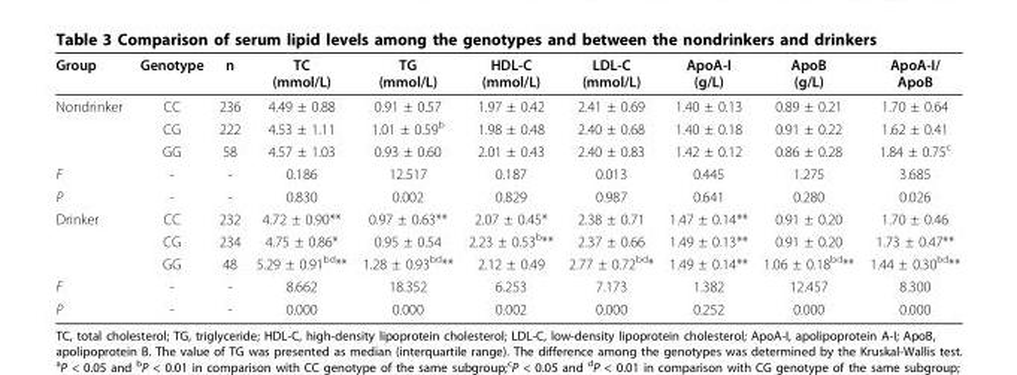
<table><thead><tr><td>Group</td><td>Genotype</td><td>n</td><td>TC (mmol/L)</td><td>TG (mmol/L)</td><td>HDL-C (mmol/L)</td><td>LDL-C (mmol/L)</td><td>ApoA-I (g/L)</td><td>ApoB (g/L)</td><td>ApoA-I/ ApoB</td></tr></thead><tbody><tr><td rowspan="3">Nondrinker</td><td>CC</td><td>236</td><td>4.49 ± 0.88</td><td>0.91 ± 0.57</td><td>1.97 ± 0.42</td><td>2.41 ± 0.69</td><td>1.40 ± 0.13</td><td>0.89 ± 0.21</td><td>1.70 ± 0.64</td></tr><tr><td>CG</td><td>222</td><td>4.53 ± 1.11</td><td>1.01 ± 0.59<sup>b</sup></td><td>1.98 ± 0.48</td><td>2.40 ± 0.68</td><td>1.40 ± 0.18</td><td>0.91 ± 0.22</td><td>1.62 ± 0.41</td></tr><tr><td>GG</td><td>58</td><td>4.57 ± 1.03</td><td>0.93 ± 0.60</td><td>2.01 ± 0.43</td><td>2.40 ± 0.83</td><td>1.42 ± 0.12</td><td>0.86 ± 0.28</td><td>1.84 ± 0.75<sup>c</sup></td></tr><tr><td>F</td><td>-</td><td>-</td><td>0.186</td><td>12.517</td><td>0.187</td><td>0.013</td><td>0.445</td><td>1.275</td><td>3.685</td></tr><tr><td>P</td><td>-</td><td>-</td><td>0.830</td><td>0.002</td><td>0.829</td><td>0.987</td><td>0.641</td><td>0.280</td><td>0.026</td></tr><tr><td rowspan="3">Drinker</td><td>CC</td><td>232</td><td>4.72 ± 0.90**</td><td>0.97 ± 0.63**</td><td>2.07 ± 0.45*</td><td>2.38 ± 0.71</td><td>1.47 ± 0.14**</td><td>0.91 ± 0.20</td><td>1.70 ± 0.46</td></tr><tr><td>CG</td><td>234</td><td>4.75 ± 0.86*</td><td>0.95 ± 0.54</td><td>2.23 ± 0.53<sup>b</sup>**</td><td>2.37 ± 0.66</td><td>1.49 ± 0.13**</td><td>0.91 ± 0.20</td><td>1.73 ± 0.47**</td></tr><tr><td>GG</td><td>48</td><td>5.29 ± 0.91<sup>bd</sup>**</td><td>1.28 ± 0.93<sup>bd</sup>**</td><td>2.12 ± 0.49</td><td>2.77 ± 0.72<sup>bd</sup>*</td><td>1.49 ± 0.14**</td><td>1.06 ± 0.18<sup>bd</sup>**</td><td>1.44 ± 0.30<sup>bd</sup>**</td></tr><tr><td>F</td><td>-</td><td>-</td><td>8.662</td><td>18.352</td><td>6.253</td><td>7.173</td><td>1.382</td><td>12.457</td><td>8.300</td></tr><tr><td>P</td><td>-</td><td>-</td><td>0.000</td><td>0.000</td><td>0.002</td><td>0.000</td><td>0.252</td><td>0.000</td><td>0.000</td></tr></tbody></table>